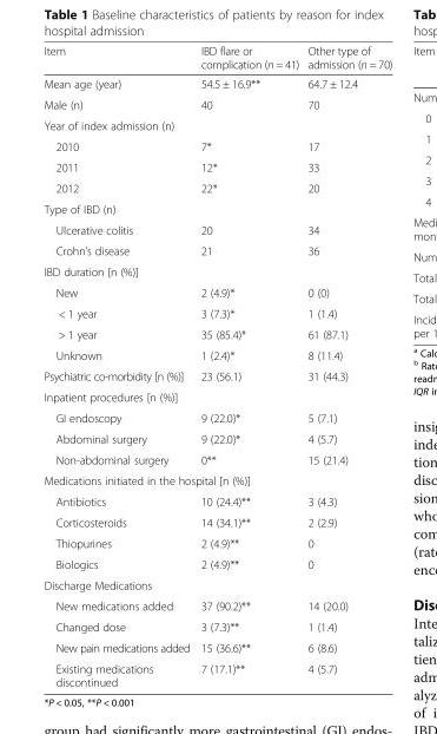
<table><thead><tr><td>Item</td><td>IBD flare or complication (n = 41)</td><td>Other type of admission (n = 70)</td></tr></thead><tbody><tr><td>Mean age (year)</td><td>54.5 ± 16.9**</td><td>64.7 ± 12.4</td></tr><tr><td>Male (n)</td><td>40</td><td>70</td></tr><tr><td colspan="3">Year of index admission (n)</td></tr><tr><td>2010</td><td>7*</td><td>17</td></tr><tr><td>2011</td><td>12*</td><td>33</td></tr><tr><td>2012</td><td>22*</td><td>20</td></tr><tr><td colspan="3">Type of IBD (n)</td></tr><tr><td>Ulcerative colitis</td><td>20</td><td>34</td></tr><tr><td>Crohn’s disease</td><td>21</td><td>36</td></tr><tr><td colspan="3">IBD duration [n (%)]</td></tr><tr><td>New</td><td>2 (4.9)*</td><td>0 (0)</td></tr><tr><td>&lt; 1 year</td><td>3 (7.3)*</td><td>1 (1.4)</td></tr><tr><td>&gt; 1 year</td><td>35 (85.4)*</td><td>61 (87.1)</td></tr><tr><td>Unknown</td><td>1 (2.4)*</td><td>8 (11.4)</td></tr><tr><td>Psychiatric co-morbidity [n (%)]</td><td>23 (56.1)</td><td>31 (44.3)</td></tr><tr><td colspan="3">Inpatient procedures [n (%)]</td></tr><tr><td>GI endoscopy</td><td>9 (22.0)*</td><td>5 (7.1)</td></tr><tr><td>Abdominal surgery</td><td>9 (22.0)*</td><td>4 (5.7)</td></tr><tr><td>Non-abdominal surgery</td><td>0**</td><td>15 (21.4)</td></tr><tr><td colspan="3">Medications initiated in the hospital [n (%)]</td></tr><tr><td>Antibiotics</td><td>10 (24.4)**</td><td>3 (4.3)</td></tr><tr><td>Corticosteroids</td><td>14 (34.1)**</td><td>2 (2.9)</td></tr><tr><td>Thiopurines</td><td>2 (4.9)**</td><td>0</td></tr><tr><td>Biologics</td><td>2 (4.9)**</td><td>0</td></tr><tr><td colspan="3">Discharge Medications</td></tr><tr><td>New medications added</td><td>37 (90.2)**</td><td>14 (20.0)</td></tr><tr><td>Changed dose</td><td>3 (7.3)**</td><td>1 (1.4)</td></tr><tr><td>New pain medications added</td><td>15 (36.6)**</td><td>6 (8.6)</td></tr><tr><td>Existing medications discontinued</td><td>7 (17.1)**</td><td>4 (5.7)</td></tr></tbody></table>